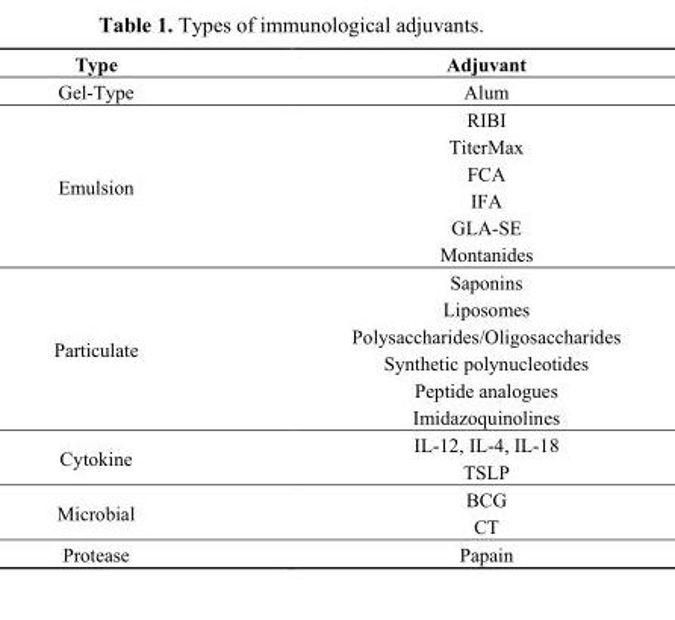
<table><thead><tr><td>Type</td><td>Adjuvant</td></tr></thead><tbody><tr><td>Gel-Type</td><td>Alum</td></tr><tr><td rowspan="6">Emulsion</td><td>RIBI</td></tr><tr><td>TiterMax</td></tr><tr><td>FCA</td></tr><tr><td>IFA</td></tr><tr><td>GLA-SE</td></tr><tr><td>Montanides</td></tr><tr><td rowspan="6">Particulate</td><td>Saponins</td></tr><tr><td>Liposomes</td></tr><tr><td>Polysaccharides/Oligosaccharides</td></tr><tr><td>Synthetic polynucleotides</td></tr><tr><td>Peptide analogues</td></tr><tr><td>Imidazoquinolines</td></tr><tr><td rowspan="2">Cytokine</td><td>IL-12, IL-4, IL-18</td></tr><tr><td>TSLP</td></tr><tr><td rowspan="2">Microbial</td><td>BCG</td></tr><tr><td>CT</td></tr><tr><td>Protease</td><td>Papain</td></tr></tbody></table>